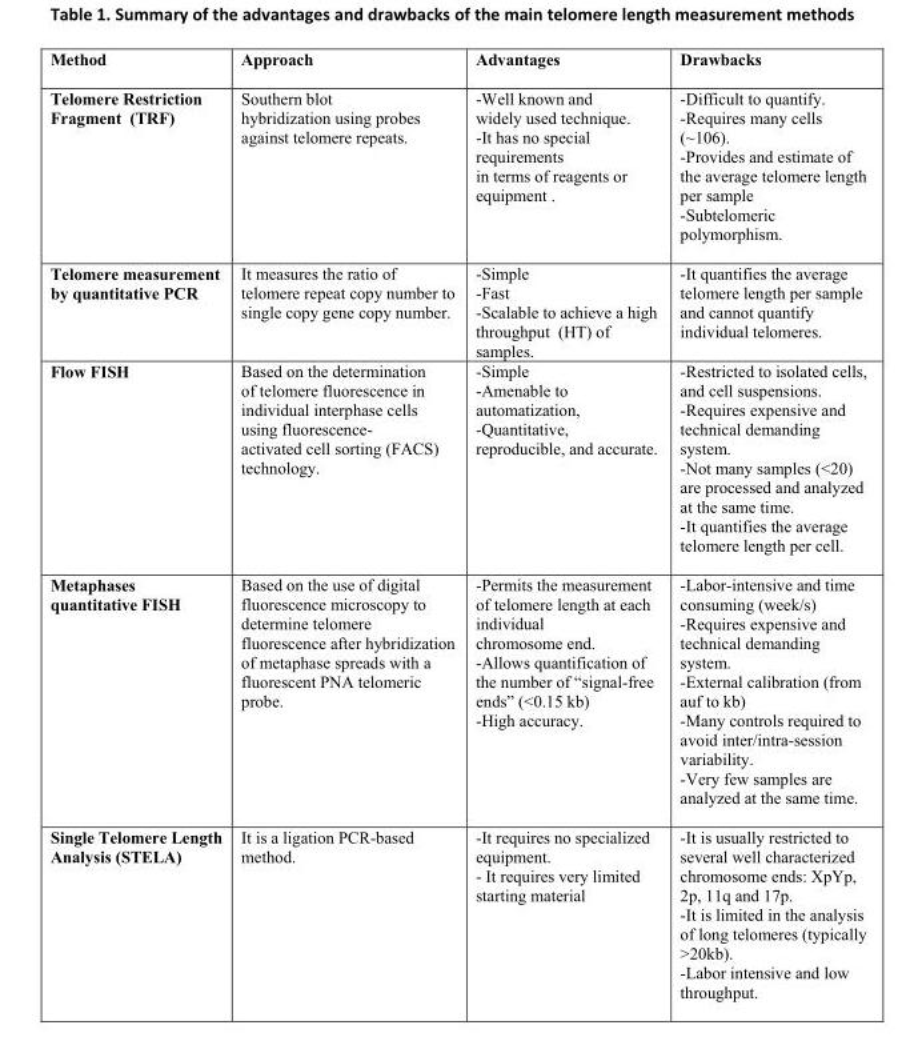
<table><thead><tr><td>Method</td><td>Approach</td><td>Advantages</td><td>Drawbacks</td></tr></thead><tbody><tr><td>Telomere Restriction Fragment (TRF)</td><td>Southern blot hybridization using probes against telomere repeats.</td><td>-Well known and widely used technique. -It has no special requirements in terms of reagents or equipment .</td><td>-Difficult to quantify. -Requires many cells (~106). -Provides and estimate of the average telomere length per sample -Subtelomeric polymorphism.</td></tr><tr><td>Telomere measurement by quantitative PCR</td><td>It measures the ratio of telomere repeat copy number to single copy gene copy number.</td><td>-Simple -Fast -Scalable to achieve a high throughput (HT) of samples.</td><td>-It quantifies the average telomere length per sample and cannot quantify individual telomeres.</td></tr><tr><td>Flow FISH</td><td>Based on the determination of telomere fluorescence in individual interphase cells using fluorescence- activated cell sorting (FACS) technology.</td><td>-Simple -Amenable to automatization, -Quantitative, reproducible, and accurate.</td><td>-Restricted to isolated cells, and cell suspensions. -Requires expensive and technical demanding system. -Not many samples (&lt;20) are processed and analyzed at the same time. -It quantifies the average telomere length per cell.</td></tr><tr><td>Metaphases quantitative FISH</td><td>Based on the use of digital fluorescence microscopy to determine telomere fluorescence after hybridization of metaphase spreads with a fluorescent PNA telomeric probe.</td><td>-Permits the measurement of telomere length at each individual chromosome end. -Allows quantification of the number of “signal-free ends” (&lt;0.15 kb) -High accuracy.</td><td>-Labor-intensive and time consuming (week/s) -Requires expensive and technical demanding system. -External calibration (from auf to kb) -Many controls required to avoid inter/intra-session variability. -Very few samples are analyzed at the same time.</td></tr><tr><td>Single Telomere Length Analysis (STELA)</td><td>It is a ligation PCR-based method.</td><td>-It requires no specialized equipment. - It requires very limited starting material</td><td>-It is usually restricted to several well characterized chromosome ends: XpYp, 2p, 11q and 17p. -It is limited in the analysis of long telomeres (typically &gt;20kb). -Labor intensive and low throughput.</td></tr></tbody></table>